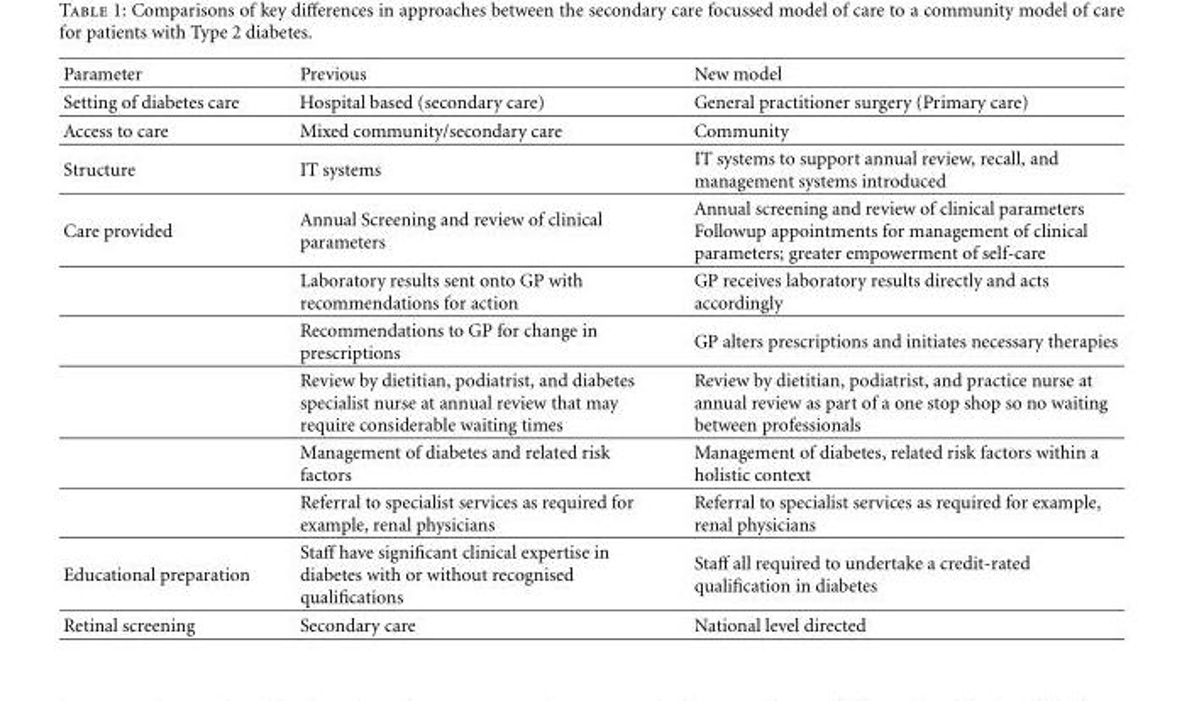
<table><thead><tr><td>Parameter</td><td>Previous</td><td>New model</td></tr></thead><tbody><tr><td>Setting of diabetes care</td><td>Hospital based (secondary care)</td><td>General practitioner surgery (Primary care)</td></tr><tr><td>Access to care</td><td>Mixed community/secondary care</td><td>Community</td></tr><tr><td>Structure</td><td>IT systems</td><td>IT systems to support annual review, recall, and management systems introduced</td></tr><tr><td rowspan="6">Care provided</td><td>Annual Screening and review of clinical parameters</td><td>Annual screening and review of clinical parameters Followup appointments for management of clinical parameters; greater empowerment of self-care</td></tr><tr><td>Laboratory results sent onto GP with recommendations for action</td><td>GP receives laboratory results directly and acts accordingly</td></tr><tr><td>Recommendations to GP for change in prescriptions</td><td>GP alters prescriptions and initiates necessary therapies</td></tr><tr><td>Review by dietitian, podiatrist, and diabetes specialist nurse at annual review that may require considerable waiting times</td><td>Review by dietitian, podiatrist, and practice nurse at annual review as part of a one stop shop so no waiting between professionals</td></tr><tr><td>Management of diabetes and related risk factors</td><td>Management of diabetes, related risk factors within a holistic context</td></tr><tr><td>Referral to specialist services as required for example, renal physicians</td><td>Referral to specialist services as required for example, renal physicians</td></tr><tr><td>Educational preparation</td><td>Staff have significant clinical expertise in diabetes with or without recognised qualifications</td><td>Staff all required to undertake a credit-rated qualification in diabetes</td></tr><tr><td>Retinal screening</td><td>Secondary care</td><td>National level directed</td></tr></tbody></table>